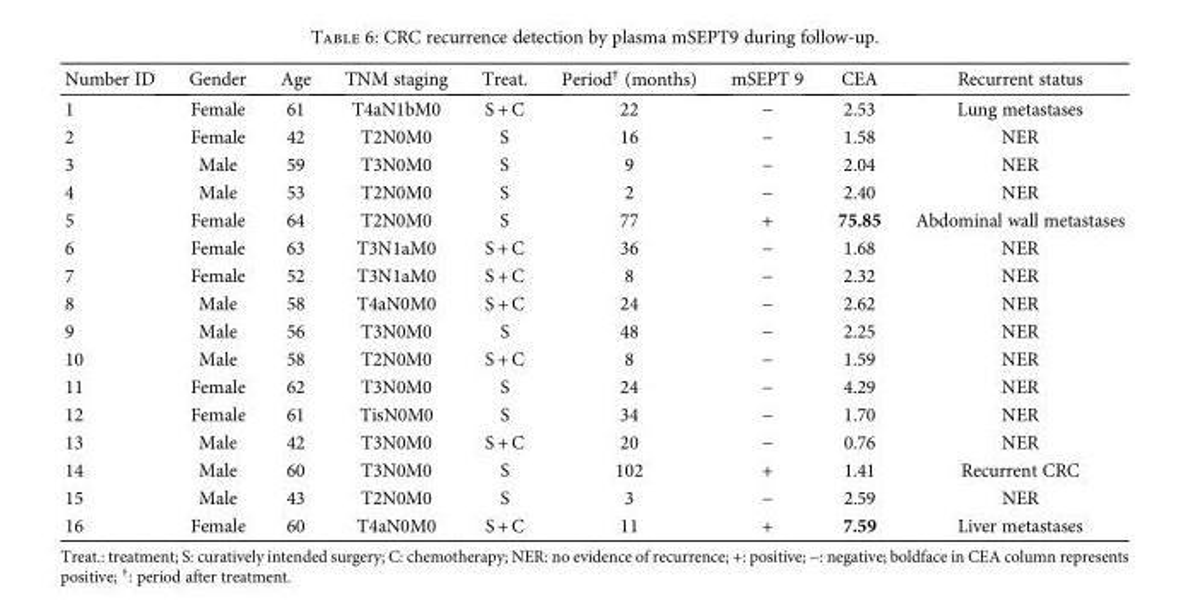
<table><thead><tr><td>Number ID</td><td>Gender</td><td>Age</td><td>TNM staging</td><td>Treat.</td><td>Period<sup>†</sup> (months)</td><td>mSEPT 9</td><td>CEA</td><td>Recurrent status</td></tr></thead><tbody><tr><td>1</td><td>Female</td><td>61</td><td>T4aN1bM0</td><td>S + C</td><td>22</td><td>−</td><td>2.53</td><td>Lung metastases</td></tr><tr><td>2</td><td>Female</td><td>42</td><td>T2N0M0</td><td>S</td><td>16</td><td>−</td><td>1.58</td><td>NER</td></tr><tr><td>3</td><td>Male</td><td>59</td><td>T3N0M0</td><td>S</td><td>9</td><td>−</td><td>2.04</td><td>NER</td></tr><tr><td>4</td><td>Male</td><td>53</td><td>T2N0M0</td><td>S</td><td>2</td><td>−</td><td>2.40</td><td>NER</td></tr><tr><td>5</td><td>Female</td><td>64</td><td>T2N0M0</td><td>S</td><td>77</td><td>+</td><td>75.85</td><td>Abdominal wall metastases</td></tr><tr><td>6</td><td>Female</td><td>63</td><td>T3N1aM0</td><td>S + C</td><td>36</td><td>−</td><td>1.68</td><td>NER</td></tr><tr><td>7</td><td>Female</td><td>52</td><td>T3N1aM0</td><td>S + C</td><td>8</td><td>−</td><td>2.32</td><td>NER</td></tr><tr><td>8</td><td>Male</td><td>58</td><td>T4aN0M0</td><td>S + C</td><td>24</td><td>−</td><td>2.62</td><td>NER</td></tr><tr><td>9</td><td>Male</td><td>56</td><td>T3N0M0</td><td>S</td><td>48</td><td>−</td><td>2.25</td><td>NER</td></tr><tr><td>10</td><td>Male</td><td>58</td><td>T2N0M0</td><td>S + C</td><td>8</td><td>−</td><td>1.59</td><td>NER</td></tr><tr><td>11</td><td>Female</td><td>62</td><td>T3N0M0</td><td>S</td><td>24</td><td>−</td><td>4.29</td><td>NER</td></tr><tr><td>12</td><td>Female</td><td>61</td><td>TisN0M0</td><td>S</td><td>34</td><td>−</td><td>1.70</td><td>NER</td></tr><tr><td>13</td><td>Male</td><td>42</td><td>T3N0M0</td><td>S + C</td><td>20</td><td>−</td><td>0.76</td><td>NER</td></tr><tr><td>14</td><td>Male</td><td>60</td><td>T3N0M0</td><td>S</td><td>102</td><td>+</td><td>1.41</td><td>Recurrent CRC</td></tr><tr><td>15</td><td>Male</td><td>43</td><td>T2N0M0</td><td>S</td><td>3</td><td>−</td><td>2.59</td><td>NER</td></tr><tr><td>16</td><td>Female</td><td>60</td><td>T4aN0M0</td><td>S + C</td><td>11</td><td>+</td><td>7.59</td><td>Liver metastases</td></tr></tbody></table>